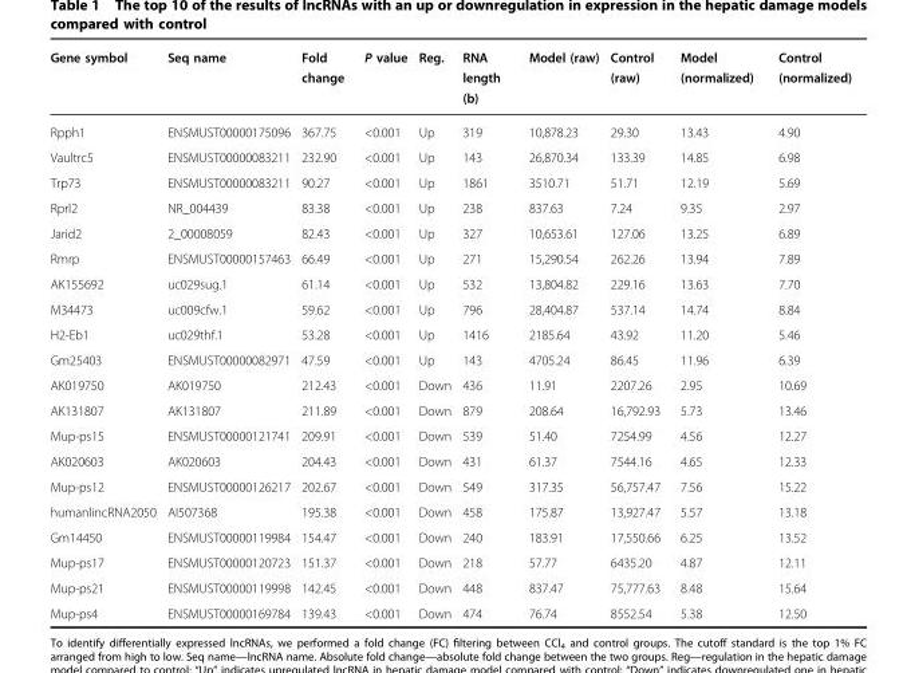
<table><thead><tr><td>Gene symbol</td><td>Seq name</td><td>Fold change</td><td>P value</td><td>Reg.</td><td>RNA length (b)</td><td>Model (raw)</td><td>Control (raw)</td><td>Model (normalized)</td><td>Control (normalized)</td></tr></thead><tbody><tr><td>Rpph1</td><td>ENSMUST00000175096</td><td>367.75</td><td>&lt;0.001</td><td>Up</td><td>319</td><td>10,878.23</td><td>29.30</td><td>13.43</td><td>4.90</td></tr><tr><td>Vaultrc5</td><td>ENSMUST00000083211</td><td>232.90</td><td>&lt;0.001</td><td>Up</td><td>143</td><td>26,870.34</td><td>133.39</td><td>14.85</td><td>6.98</td></tr><tr><td>Trp73</td><td>ENSMUST00000083211</td><td>90.27</td><td>&lt;0.001</td><td>Up</td><td>1861</td><td>3510.71</td><td>51.71</td><td>12.19</td><td>5.69</td></tr><tr><td>Rprl2</td><td>NR_004439</td><td>83.38</td><td>&lt;0.001</td><td>Up</td><td>238</td><td>837.63</td><td>7.24</td><td>9.35</td><td>2.97</td></tr><tr><td>Jarid2</td><td>2_00008059</td><td>82.43</td><td>&lt;0.001</td><td>Up</td><td>327</td><td>10,653.61</td><td>127.06</td><td>13.25</td><td>6.89</td></tr><tr><td>Rmrp</td><td>ENSMUST00000157463</td><td>66.49</td><td>&lt;0.001</td><td>Up</td><td>271</td><td>15,290.54</td><td>262.26</td><td>13.94</td><td>7.89</td></tr><tr><td>AK155692</td><td>uc029sug.1</td><td>61.14</td><td>&lt;0.001</td><td>Up</td><td>532</td><td>13,804.82</td><td>229.16</td><td>13.63</td><td>7.70</td></tr><tr><td>M34473</td><td>uc009cfw.1</td><td>59.62</td><td>&lt;0.001</td><td>Up</td><td>796</td><td>28,404.87</td><td>537.14</td><td>14.74</td><td>8.84</td></tr><tr><td>H2-Eb1</td><td>uc029thf.1</td><td>53.28</td><td>&lt;0.001</td><td>Up</td><td>1416</td><td>2185.64</td><td>43.92</td><td>11.20</td><td>5.46</td></tr><tr><td>Gm25403</td><td>ENSMUST00000082971</td><td>47.59</td><td>&lt;0.001</td><td>Up</td><td>143</td><td>4705.24</td><td>86.45</td><td>11.96</td><td>6.39</td></tr><tr><td>AK019750</td><td>AK019750</td><td>212.43</td><td>&lt;0.001</td><td>Down</td><td>436</td><td>11.91</td><td>2207.26</td><td>2.95</td><td>10.69</td></tr><tr><td>AK131807</td><td>AK131807</td><td>211.89</td><td>&lt;0.001</td><td>Down</td><td>879</td><td>208.64</td><td>16,792.93</td><td>5.73</td><td>13.46</td></tr><tr><td>Mup-ps15</td><td>ENSMUST00000121741</td><td>209.91</td><td>&lt;0.001</td><td>Down</td><td>539</td><td>51.40</td><td>7254.99</td><td>4.56</td><td>12.27</td></tr><tr><td>AK020603</td><td>AK020603</td><td>204.43</td><td>&lt;0.001</td><td>Down</td><td>431</td><td>61.37</td><td>7544.16</td><td>4.65</td><td>12.33</td></tr><tr><td>Mup-ps12</td><td>ENSMUST00000126217</td><td>202.67</td><td>&lt;0.001</td><td>Down</td><td>549</td><td>317.35</td><td>56,757.47</td><td>7.56</td><td>15.22</td></tr><tr><td>humanlincRNA2050</td><td>AI507368</td><td>195.38</td><td>&lt;0.001</td><td>Down</td><td>458</td><td>175.87</td><td>13,927.47</td><td>5.57</td><td>13.18</td></tr><tr><td>Gm14450</td><td>ENSMUST00000119984</td><td>154.47</td><td>&lt;0.001</td><td>Down</td><td>240</td><td>183.91</td><td>17,550.66</td><td>6.25</td><td>13.52</td></tr><tr><td>Mup-ps17</td><td>ENSMUST00000120723</td><td>151.37</td><td>&lt;0.001</td><td>Down</td><td>218</td><td>57.77</td><td>6435.20</td><td>4.87</td><td>12.11</td></tr><tr><td>Mup-ps21</td><td>ENSMUST00000119998</td><td>142.45</td><td>&lt;0.001</td><td>Down</td><td>448</td><td>837.47</td><td>75,777.63</td><td>8.48</td><td>15.64</td></tr><tr><td>Mup-ps4</td><td>ENSMUST00000169784</td><td>139.43</td><td>&lt;0.001</td><td>Down</td><td>474</td><td>76.74</td><td>8552.54</td><td>5.38</td><td>12.50</td></tr></tbody></table>